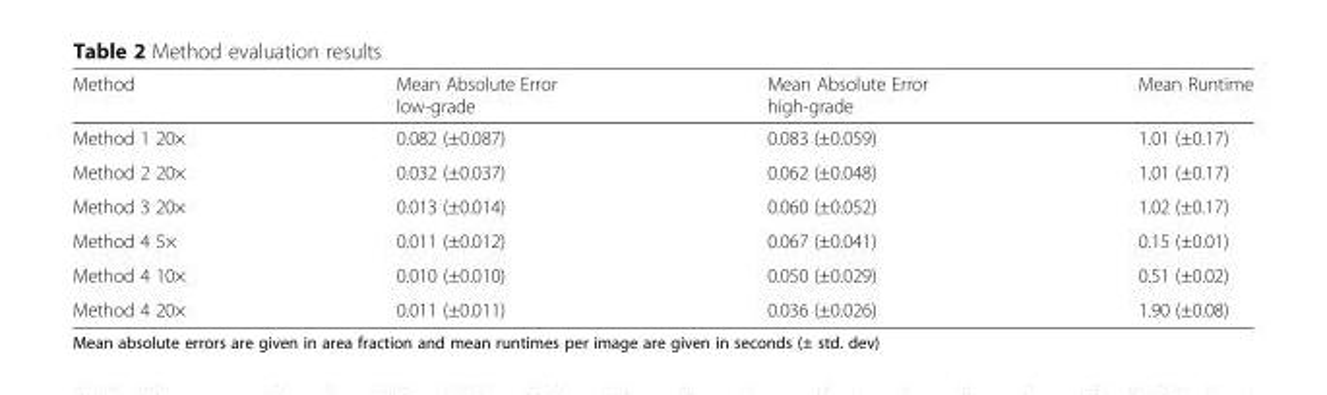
<table><thead><tr><td>Method</td><td>Mean Absolute Error low-grade</td><td>Mean Absolute Error high-grade</td><td>Mean Runtime</td></tr></thead><tbody><tr><td>Method 1 20×</td><td>0.082 (±0.087)</td><td>0.083 (±0.059)</td><td>1.01 (±0.17)</td></tr><tr><td>Method 2 20×</td><td>0.032 (±0.037)</td><td>0.062 (±0.048)</td><td>1.01 (±0.17)</td></tr><tr><td>Method 3 20×</td><td>0.013 (±0.014)</td><td>0.060 (±0.052)</td><td>1.02 (±0.17)</td></tr><tr><td>Method 4 5×</td><td>0.011 (±0.012)</td><td>0.067 (±0.041)</td><td>0.15 (±0.01)</td></tr><tr><td>Method 4 10×</td><td>0.010 (±0.010)</td><td>0.050 (±0.029)</td><td>0.51 (±0.02)</td></tr><tr><td>Method 4 20×</td><td>0.011 (±0.011)</td><td>0.036 (±0.026)</td><td>1.90 (±0.08)</td></tr></tbody></table>